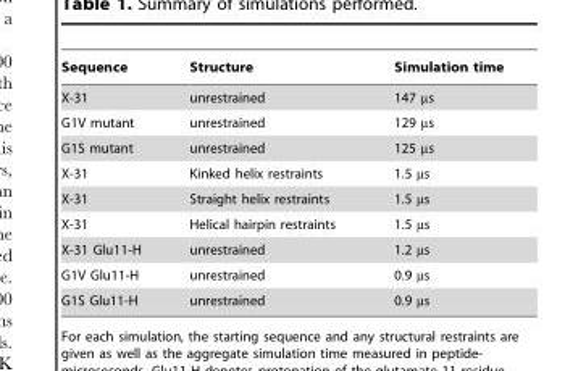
<table><thead><tr><td>Sequence</td><td>Structure</td><td>Simulation time</td></tr></thead><tbody><tr><td>X-31</td><td>unrestrained</td><td>147 µs</td></tr><tr><td>G1V mutant</td><td>unrestrained</td><td>129 µs</td></tr><tr><td>G1S mutant</td><td>unrestrained</td><td>125 µs</td></tr><tr><td>X-31</td><td>Kinked helix restraints</td><td>1.5 µs</td></tr><tr><td>X-31</td><td>Straight helix restraints</td><td>1.5 µs</td></tr><tr><td>X-31</td><td>Helical hairpin restraints</td><td>1.5 µs</td></tr><tr><td>X-31 Glu11-H</td><td>unrestrained</td><td>1.2 µs</td></tr><tr><td>G1V Glu11-H</td><td>unrestrained</td><td>0.9 µs</td></tr><tr><td>G1S Glu11-H</td><td>unrestrained</td><td>0.9 µs</td></tr></tbody></table>